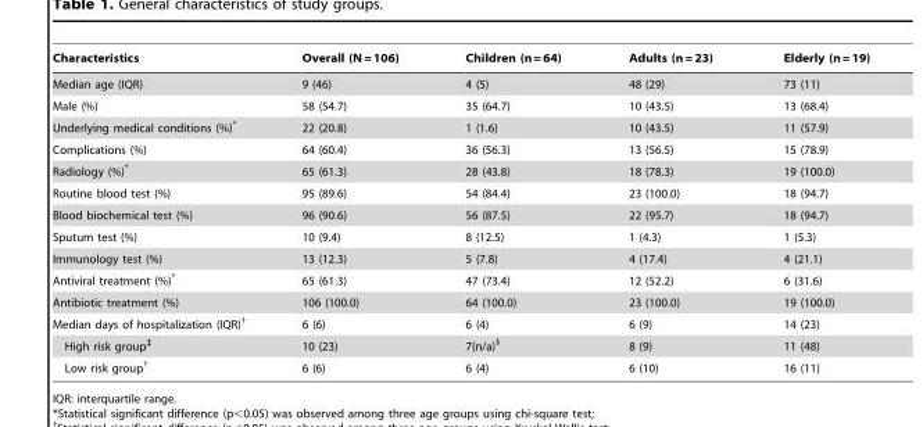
<table><thead><tr><td>Characteristics</td><td>Overall (N = 106)</td><td>Children (n = 64)</td><td>Adults (n = 23)</td><td>Elderly (n = 19)</td></tr></thead><tbody><tr><td>Median age (IQR)</td><td>9 (46)</td><td>4 (5)</td><td>48 (29)</td><td>73 (11)</td></tr><tr><td>Male (%)</td><td>58 (54.7)</td><td>35 (64.7)</td><td>10 (43.5)</td><td>13 (68.4)</td></tr><tr><td>Underlying medical conditions (%)*</td><td>22 (20.8)</td><td>1 (1.6)</td><td>10 (43.5)</td><td>11 (57.9)</td></tr><tr><td>Complications (%)</td><td>64 (60.4)</td><td>36 (56.3)</td><td>13 (56.5)</td><td>15 (78.9)</td></tr><tr><td>Radiology (%)*</td><td>65 (61.3)</td><td>28 (43.8)</td><td>18 (78.3)</td><td>19 (100.0)</td></tr><tr><td>Routine blood test (%)</td><td>95 (89.6)</td><td>54 (84.4)</td><td>23 (100.0)</td><td>18 (94.7)</td></tr><tr><td>Blood biochemical test (%)</td><td>96 (90.6)</td><td>56 (87.5)</td><td>22 (95.7)</td><td>18 (94.7)</td></tr><tr><td>Sputum test (%)</td><td>10 (9.4)</td><td>8 (12.5)</td><td>1 (4.3)</td><td>1 (5.3)</td></tr><tr><td>Immunology test (%)</td><td>13 (12.3)</td><td>5 (7.8)</td><td>4 (17.4)</td><td>4 (21.1)</td></tr><tr><td>Antiviral treatment (%)*</td><td>65 (61.3)</td><td>47 (73.4)</td><td>12 (52.2)</td><td>6 (31.6)</td></tr><tr><td>Antibiotic treatment (%)</td><td>106 (100.0)</td><td>64 (100.0)</td><td>23 (100.0)</td><td>19 (100.0)</td></tr><tr><td>Median days of hospitalization (IQR)†</td><td>6 (6)</td><td>6 (4)</td><td>6 (9)</td><td>14 (23)</td></tr><tr><td>High risk group‡</td><td>10 (23)</td><td>7(n/a)§</td><td>8 (9)</td><td>11 (48)</td></tr><tr><td>Low risk group†</td><td>6 (6)</td><td>6 (4)</td><td>6 (10)</td><td>16 (11)</td></tr></tbody></table>